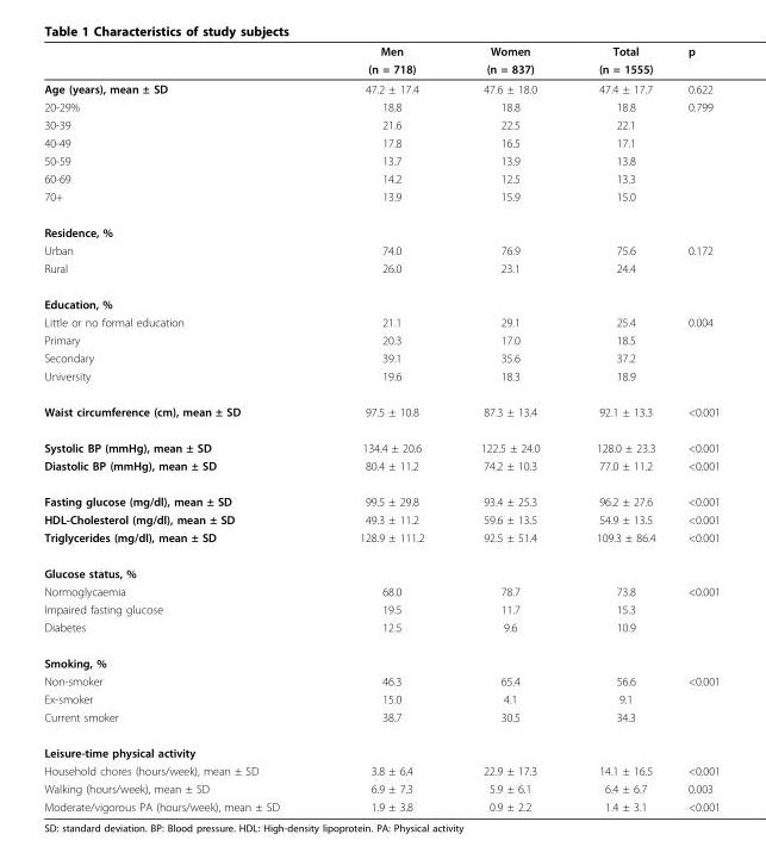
<table><thead><tr><td rowspan="2"></td><td rowspan="2">Men (n = 718)</td><td rowspan="2">Women (n = 837)</td><td rowspan="2">Total (n = 1555)</td><td rowspan="2">p</td></tr><tr></tr></thead><tbody><tr><td>Age (years), mean ± SD</td><td>47.2 ± 17.4</td><td>47.6 ± 18.0</td><td>47.4 ± 17.7</td><td>0.622</td></tr><tr><td>20-29%</td><td>18.8</td><td>18.8</td><td>18.8</td><td>0.799</td></tr><tr><td>30-39</td><td>21.6</td><td>22.5</td><td>22.1</td><td></td></tr><tr><td>40-49</td><td>17.8</td><td>16.5</td><td>17.1</td><td></td></tr><tr><td>50-59</td><td>13.7</td><td>13.9</td><td>13.8</td><td></td></tr><tr><td>60-69</td><td>14.2</td><td>12.5</td><td>13.3</td><td></td></tr><tr><td>70+</td><td>13.9</td><td>15.9</td><td>15.0</td><td></td></tr><tr><td colspan="5">Residence, %</td></tr><tr><td>Urban</td><td>74.0</td><td>76.9</td><td>75.6</td><td>0.172</td></tr><tr><td>Rural</td><td>26.0</td><td>23.1</td><td>24.4</td><td></td></tr><tr><td colspan="5">Education, %</td></tr><tr><td>Little or no formal education</td><td>21.1</td><td>29.1</td><td>25.4</td><td>0.004</td></tr><tr><td>Primary</td><td>20.3</td><td>17.0</td><td>18.5</td><td></td></tr><tr><td>Secondary</td><td>39.1</td><td>35.6</td><td>37.2</td><td></td></tr><tr><td>University</td><td>19.6</td><td>18.3</td><td>18.9</td><td></td></tr><tr><td>Waist circumference (cm), mean ± SD</td><td>97.5 ± 10.8</td><td>87.3 ± 13.4</td><td>92.1 ± 13.3</td><td>&lt;0.001</td></tr><tr><td>Systolic BP (mmHg), mean ± SD</td><td>134.4 ± 20.6</td><td>122.5 ± 24.0</td><td>128.0 ± 23.3</td><td>&lt;0.001</td></tr><tr><td>Diastolic BP (mmHg), mean ± SD</td><td>80.4 ± 11.2</td><td>74.2 ± 10.3</td><td>77.0 ± 11.2</td><td>&lt;0.001</td></tr><tr><td>Fasting glucose (mg/dl), mean ± SD</td><td>99.5 ± 29.8</td><td>93.4 ± 25.3</td><td>96.2 ± 27.6</td><td>&lt;0.001</td></tr><tr><td>HDL-Cholesterol (mg/dl), mean ± SD</td><td>49.3 ± 11.2</td><td>59.6 ± 13.5</td><td>54.9 ± 13.5</td><td>&lt;0.001</td></tr><tr><td>Triglycerides (mg/dl), mean ± SD</td><td>128.9 ± 111.2</td><td>92.5 ± 51.4</td><td>109.3 ± 86.4</td><td>&lt;0.001</td></tr><tr><td colspan="5">Glucose status, %</td></tr><tr><td>Normoglycaemia</td><td>68.0</td><td>78.7</td><td>73.8</td><td>&lt;0.001</td></tr><tr><td>Impaired fasting glucose</td><td>19.5</td><td>11.7</td><td>15.3</td><td></td></tr><tr><td>Diabetes</td><td>12.5</td><td>9.6</td><td>10.9</td><td></td></tr><tr><td colspan="5">Smoking, %</td></tr><tr><td>Non-smoker</td><td>46.3</td><td>65.4</td><td>56.6</td><td>&lt;0.001</td></tr><tr><td>Ex-smoker</td><td>15.0</td><td>4.1</td><td>9.1</td><td></td></tr><tr><td>Current smoker</td><td>38.7</td><td>30.5</td><td>34.3</td><td></td></tr><tr><td colspan="5">Leisure-time physical activity</td></tr><tr><td>Household chores (hours/week), mean ± SD</td><td>3.8 ± 6.4</td><td>22.9 ± 17.3</td><td>14.1 ± 16.5</td><td>&lt;0.001</td></tr><tr><td>Walking (hours/week), mean ± SD</td><td>6.9 ± 7.3</td><td>5.9 ± 6.1</td><td>6.4 ± 6.7</td><td>0.003</td></tr><tr><td>Moderate/vigorous PA (hours/week), mean ± SD</td><td>1.9 ± 3.8</td><td>0.9 ± 2.2</td><td>1.4 ± 3.1</td><td>&lt;0.001</td></tr></tbody></table>